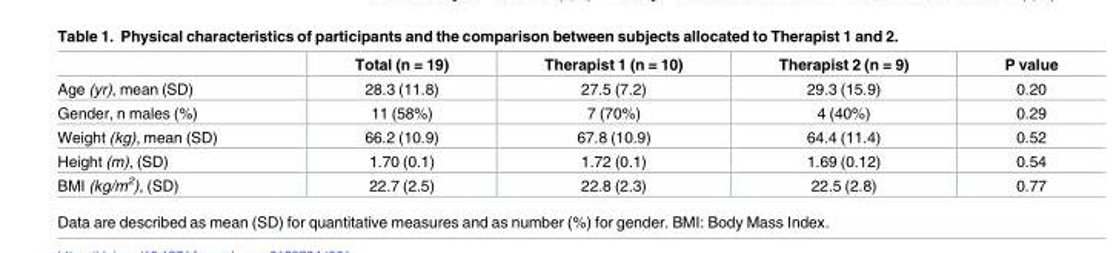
<table><thead><tr><td></td><td>Total (n = 19)</td><td>Therapist 1 (n = 10)</td><td>Therapist 2 (n = 9)</td><td>P value</td></tr></thead><tbody><tr><td>Age (yr), mean (SD)</td><td>28.3 (11.8)</td><td>27.5 (7.2)</td><td>29.3 (15.9)</td><td>0.20</td></tr><tr><td>Gender, n males (%)</td><td>11 (58%)</td><td>7 (70%)</td><td>4 (40%)</td><td>0.29</td></tr><tr><td>Weight (kg), mean (SD)</td><td>66.2 (10.9)</td><td>67.8 (10.9)</td><td>64.4 (11.4)</td><td>0.52</td></tr><tr><td>Height (m), (SD)</td><td>1.70 (0.1)</td><td>1.72 (0.1)</td><td>1.69 (0.12)</td><td>0.54</td></tr><tr><td>BMI (kg/m<sup>2</sup>), (SD)</td><td>22.7 (2.5)</td><td>22.8 (2.3)</td><td>22.5 (2.8)</td><td>0.77</td></tr></tbody></table>